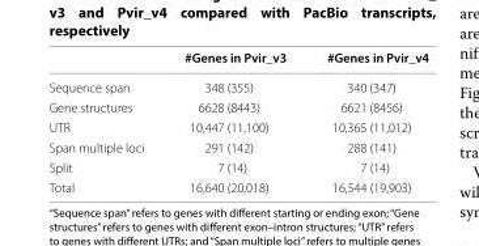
<table><thead><tr><td></td><td>#Genes in Pvir_v3</td><td>#Genes in Pvir_v4</td></tr></thead><tbody><tr><td>Sequence span</td><td>348 (355)</td><td>340 (347)</td></tr><tr><td>Gene structures</td><td>6628 (8443)</td><td>6621 (8456)</td></tr><tr><td>UTR</td><td>10,447 (11,100)</td><td>10,365 (11,012)</td></tr><tr><td>Span multiple loci</td><td>291 (142)</td><td>288 (141)</td></tr><tr><td>Split</td><td>7 (14)</td><td>7 (14)</td></tr><tr><td>Total</td><td>16,640 (20,018)</td><td>16,544 (19,903)</td></tr></tbody></table>